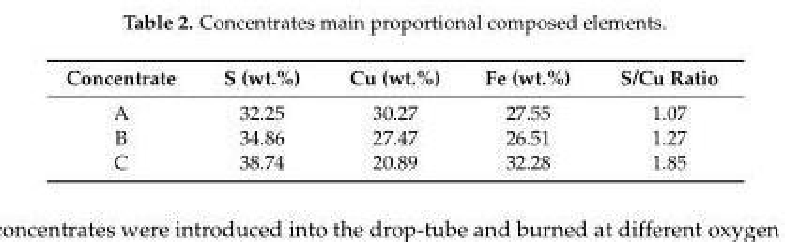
<table><thead><tr><td>Concentrate</td><td>S (wt.%)</td><td>Cu (wt.%)</td><td>Fe (wt.%)</td><td>S/Cu Ratio</td></tr></thead><tbody><tr><td>A</td><td>32.25</td><td>30.27</td><td>27.55</td><td>1.07</td></tr><tr><td>B</td><td>34.86</td><td>27.47</td><td>26.51</td><td>1.27</td></tr><tr><td>C</td><td>38.74</td><td>20.89</td><td>32.28</td><td>1.85</td></tr></tbody></table>